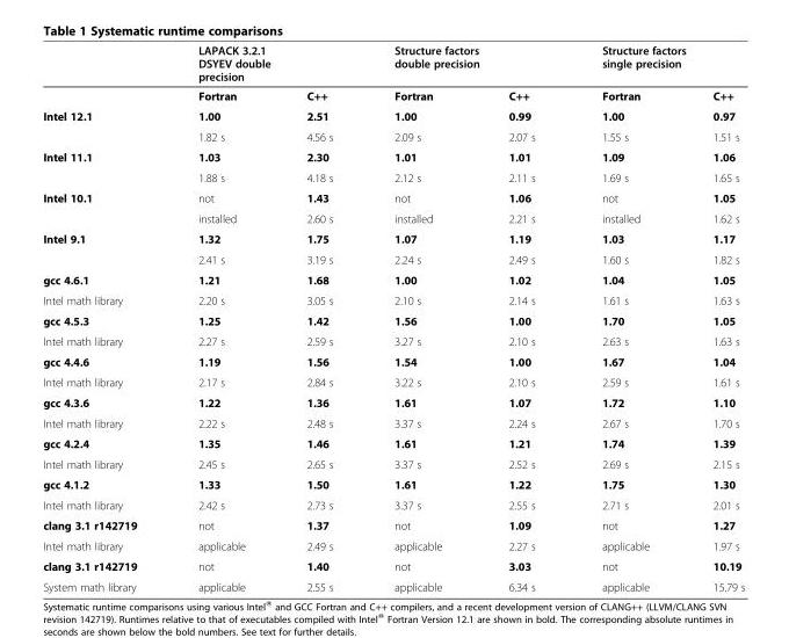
<table><thead><tr><td rowspan="2"></td><td colspan="2">LAPACK 3.2.1 DSYEV double precision</td><td colspan="2">Structure factors double precision</td><td colspan="2">Structure factors single precision</td></tr><tr><td>Fortran</td><td>C++</td><td>Fortran</td><td>C++</td><td>Fortran</td><td>C++</td></tr></thead><tbody><tr><td rowspan="2">Intel 12.1</td><td>1.00</td><td>2.51</td><td>1.00</td><td>0.99</td><td>1.00</td><td>0.97</td></tr><tr><td>1.82 s</td><td>4.56 s</td><td>2.09 s</td><td>2.07 s</td><td>1.55 s</td><td>1.51 s</td></tr><tr><td rowspan="2">Intel 11.1</td><td>1.03</td><td>2.30</td><td>1.01</td><td>1.01</td><td>1.09</td><td>1.06</td></tr><tr><td>1.88 s</td><td>4.18 s</td><td>2.12 s</td><td>2.11 s</td><td>1.69 s</td><td>1.65 s</td></tr><tr><td rowspan="2">Intel 10.1</td><td>not</td><td>1.43</td><td>not</td><td>1.06</td><td>not</td><td>1.05</td></tr><tr><td>installed</td><td>2.60 s</td><td>installed</td><td>2.21 s</td><td>installed</td><td>1.62 s</td></tr><tr><td rowspan="2">Intel 9.1</td><td>1.32</td><td>1.75</td><td>1.07</td><td>1.19</td><td>1.03</td><td>1.17</td></tr><tr><td>2.41 s</td><td>3.19 s</td><td>2.24 s</td><td>2.49 s</td><td>1.60 s</td><td>1.82 s</td></tr><tr><td>gcc 4.6.1</td><td>1.21</td><td>1.68</td><td>1.00</td><td>1.02</td><td>1.04</td><td>1.05</td></tr><tr><td>Intel math library</td><td>2.20 s</td><td>3.05 s</td><td>2.10 s</td><td>2.14 s</td><td>1.61 s</td><td>1.63 s</td></tr><tr><td>gcc 4.5.3</td><td>1.25</td><td>1.42</td><td>1.56</td><td>1.00</td><td>1.70</td><td>1.05</td></tr><tr><td>Intel math library</td><td>2.27 s</td><td>2.59 s</td><td>3.27 s</td><td>2.10 s</td><td>2.63 s</td><td>1.63 s</td></tr><tr><td>gcc 4.4.6</td><td>1.19</td><td>1.56</td><td>1.54</td><td>1.00</td><td>1.67</td><td>1.04</td></tr><tr><td>Intel math library</td><td>2.17 s</td><td>2.84 s</td><td>3.22 s</td><td>2.10 s</td><td>2.59 s</td><td>1.61 s</td></tr><tr><td>gcc 4.3.6</td><td>1.22</td><td>1.36</td><td>1.61</td><td>1.07</td><td>1.72</td><td>1.10</td></tr><tr><td>Intel math library</td><td>2.22 s</td><td>2.48 s</td><td>3.37 s</td><td>2.24 s</td><td>2.67 s</td><td>1.70 s</td></tr><tr><td>gcc 4.2.4</td><td>1.35</td><td>1.46</td><td>1.61</td><td>1.21</td><td>1.74</td><td>1.39</td></tr><tr><td>Intel math library</td><td>2.45 s</td><td>2.65 s</td><td>3.37 s</td><td>2.52 s</td><td>2.69 s</td><td>2.15 s</td></tr><tr><td>gcc 4.1.2</td><td>1.33</td><td>1.50</td><td>1.61</td><td>1.22</td><td>1.75</td><td>1.30</td></tr><tr><td>Intel math library</td><td>2.42 s</td><td>2.73 s</td><td>3.37 s</td><td>2.55 s</td><td>2.71 s</td><td>2.01 s</td></tr><tr><td>clang 3.1 r142719</td><td>not</td><td>1.37</td><td>not</td><td>1.09</td><td>not</td><td>1.27</td></tr><tr><td>Intel math library</td><td>applicable</td><td>2.49 s</td><td>applicable</td><td>2.27 s</td><td>applicable</td><td>1.97 s</td></tr><tr><td>clang 3.1 r142719</td><td>not</td><td>1.40</td><td>not</td><td>3.03</td><td>not</td><td>10.19</td></tr><tr><td>System math library</td><td>applicable</td><td>2.55 s</td><td>applicable</td><td>6.34 s</td><td>applicable</td><td>15.79 s</td></tr></tbody></table>